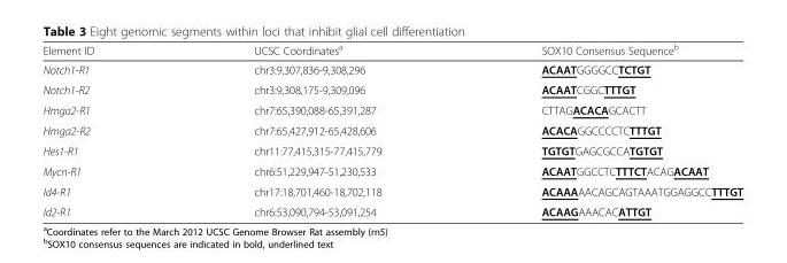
<table><thead><tr><td>Element ID</td><td>UCSC Coordinates<sup>a</sup></td><td>SOX10 Consensus Sequence<sup>b</sup></td></tr></thead><tbody><tr><td>Notch1-R1</td><td>chr3:9,307,836-9,308,296</td><td>ACAATGGGGCCTCTGT</td></tr><tr><td>Notch1-R2</td><td>chr3:9,308,175-9,309,096</td><td>ACAATCGGCTTTGT</td></tr><tr><td>Hmga2-R1</td><td>chr7:65,390,088-65,391,287</td><td>CTTAGACACAGCACTT</td></tr><tr><td>Hmga2-R2</td><td>chr7:65,427,912-65,428,606</td><td>ACACAGGCCCCTCTTTGT</td></tr><tr><td>Hes1-R1</td><td>chr11:77,415,315-77,415,779</td><td>TGTGTGAGCGCCATGTGT</td></tr><tr><td>Mycn-R1</td><td>chr6:51,229,947-51,230,533</td><td>ACAATGGCCTCTTTCTACAGACAAT</td></tr><tr><td>Id4-R1</td><td>chr17:18,701,460-18,702,118</td><td>ACAAAAACAGCAGTAAATGGAGGCCTTTGT</td></tr><tr><td>Id2-R1</td><td>chr6:53,090,794-53,091,254</td><td>ACAAGAAACACATTGT</td></tr></tbody></table>